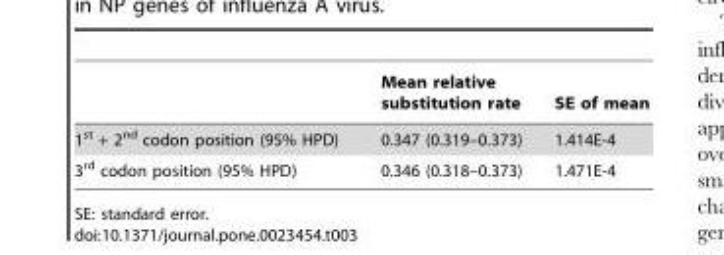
<table><thead><tr><td></td><td>Mean relative substitution rate</td><td>SE of mean</td></tr></thead><tbody><tr><td>1<sup>st</sup> + 2<sup>nd</sup> codon position (95% HPD)</td><td>0.347 (0.319–0.373)</td><td>1.414E-4</td></tr><tr><td>3<sup>rd</sup> codon position (95% HPD)</td><td>0.346 (0.318–0.373)</td><td>1.471E-4</td></tr></tbody></table>